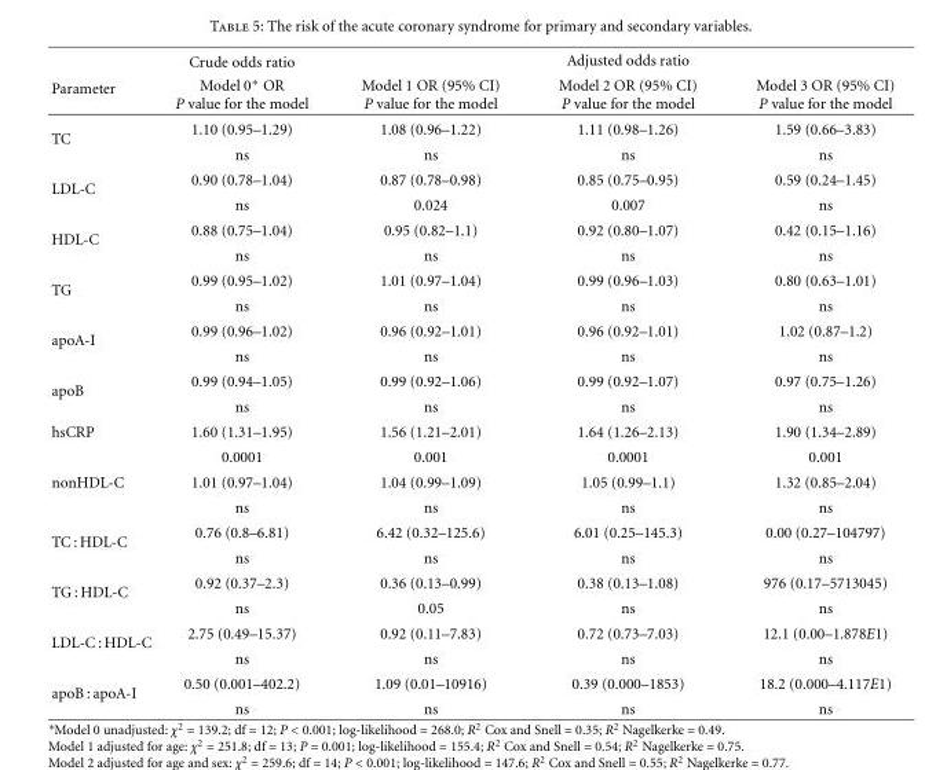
<table><thead><tr><td rowspan="2">Parameter</td><td rowspan="2">Crude odds ratio Model 0∗ OR P value for the model</td><td colspan="3">Adjusted odds ratio</td></tr><tr><td>Model 1 OR (95% CI) P value for the model</td><td>Model 2 OR (95% CI) P value for the model</td><td>Model 3 OR (95% CI) P value for the model</td></tr></thead><tbody><tr><td rowspan="2">TC</td><td>1.10 (0.95–1.29)</td><td>1.08 (0.96–1.22)</td><td>1.11 (0.98–1.26)</td><td>1.59 (0.66–3.83)</td></tr><tr><td>ns</td><td>ns</td><td>ns</td><td>ns</td></tr><tr><td rowspan="2">LDL-C</td><td>0.90 (0.78–1.04)</td><td>0.87 (0.78–0.98)</td><td>0.85 (0.75–0.95)</td><td>0.59 (0.24–1.45)</td></tr><tr><td>ns</td><td>0.024</td><td>0.007</td><td>ns</td></tr><tr><td rowspan="2">HDL-C</td><td>0.88 (0.75–1.04)</td><td>0.95 (0.82–1.1)</td><td>0.92 (0.80–1.07)</td><td>0.42 (0.15–1.16)</td></tr><tr><td>ns</td><td>ns</td><td>ns</td><td>ns</td></tr><tr><td rowspan="2">TG</td><td>0.99 (0.95–1.02)</td><td>1.01 (0.97–1.04)</td><td>0.99 (0.96–1.03)</td><td>0.80 (0.63–1.01)</td></tr><tr><td>ns</td><td>ns</td><td>ns</td><td>ns</td></tr><tr><td rowspan="2">apoA-I</td><td>0.99 (0.96–1.02)</td><td>0.96 (0.92–1.01)</td><td>0.96 (0.92–1.01)</td><td>1.02 (0.87–1.2)</td></tr><tr><td>ns</td><td>ns</td><td>ns</td><td>ns</td></tr><tr><td rowspan="2">apoB</td><td>0.99 (0.94–1.05)</td><td>0.99 (0.92–1.06)</td><td>0.99 (0.92–1.07)</td><td>0.97 (0.75–1.26)</td></tr><tr><td>ns</td><td>ns</td><td>ns</td><td>ns</td></tr><tr><td rowspan="2">hsCRP</td><td>1.60 (1.31–1.95)</td><td>1.56 (1.21–2.01)</td><td>1.64 (1.26–2.13)</td><td>1.90 (1.34–2.89)</td></tr><tr><td>0.0001</td><td>0.001</td><td>0.0001</td><td>0.001</td></tr><tr><td rowspan="2">nonHDL-C</td><td>1.01 (0.97–1.04)</td><td>1.04 (0.99–1.09)</td><td>1.05 (0.99–1.1)</td><td>1.32 (0.85–2.04)</td></tr><tr><td>ns</td><td>ns</td><td>ns</td><td>ns</td></tr><tr><td rowspan="2">TC : HDL-C</td><td>0.76 (0.8–6.81)</td><td>6.42 (0.32–125.6)</td><td>6.01 (0.25–145.3)</td><td>0.00 (0.27–104797)</td></tr><tr><td>ns</td><td>ns</td><td>ns</td><td>ns</td></tr><tr><td rowspan="2">TG : HDL-C</td><td>0.92 (0.37–2.3)</td><td>0.36 (0.13–0.99)</td><td>0.38 (0.13–1.08)</td><td>976 (0.17–5713045)</td></tr><tr><td>ns</td><td>0.05</td><td>ns</td><td>ns</td></tr><tr><td rowspan="2">LDL-C : HDL-C</td><td>2.75 (0.49–15.37)</td><td>0.92 (0.11–7.83)</td><td>0.72 (0.73–7.03)</td><td>12.1 (0.00–1.878E1)</td></tr><tr><td>ns</td><td>ns</td><td>ns</td><td>ns</td></tr><tr><td rowspan="2">apoB : apoA-I</td><td>0.50 (0.001–402.2)</td><td>1.09 (0.01–10916)</td><td>0.39 (0.000–1853)</td><td>18.2 (0.000–4.117E1)</td></tr><tr><td>ns</td><td>ns</td><td>ns</td><td>ns</td></tr></tbody></table>